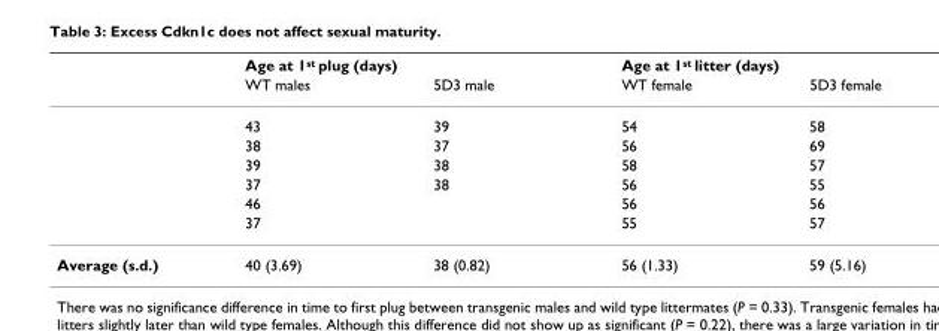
<table><thead><tr><td rowspan="2"></td><td colspan="2">Age at 1<sup>st</sup> plug (days)</td><td colspan="2">Age at 1<sup>st</sup> litter (days)</td></tr><tr><td>WT males</td><td>5D3 male</td><td>WT female</td><td>5D3 female</td></tr></thead><tbody><tr><td></td><td>43</td><td>39</td><td>54</td><td>58</td></tr><tr><td></td><td>38</td><td>37</td><td>56</td><td>69</td></tr><tr><td></td><td>39</td><td>38</td><td>58</td><td>57</td></tr><tr><td></td><td>37</td><td>38</td><td>56</td><td>55</td></tr><tr><td></td><td>46</td><td></td><td>56</td><td>56</td></tr><tr><td></td><td>37</td><td></td><td>55</td><td>57</td></tr><tr><td>Average (s.d.)</td><td>40 (3.69)</td><td>38 (0.82)</td><td>56 (1.33)</td><td>59 (5.16)</td></tr></tbody></table>